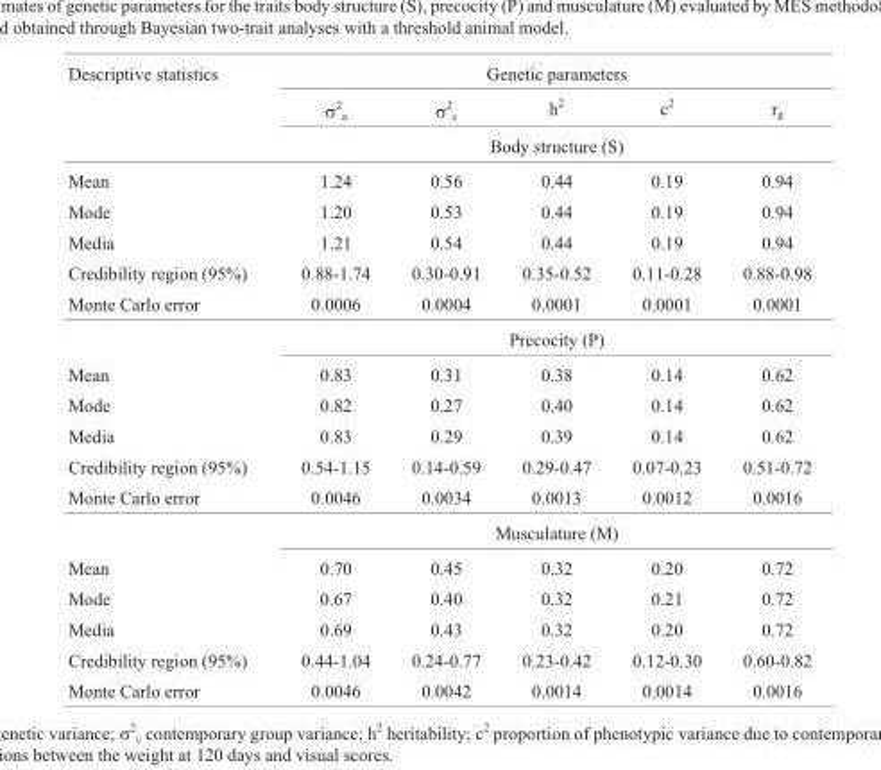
<table><thead><tr><td rowspan="3">Descriptive statistics</td><td colspan="5">Genetic parameters</td></tr><tr><td>σ<sup>2</sup> <sub>a</sub></td><td>σ<sup>2</sup> <sub>c</sub></td><td>h<sup>2</sup></td><td>c<sup>2</sup></td><td>r<sub>g</sub></td></tr><tr><td colspan="5">Body structure (S)</td></tr></thead><tbody><tr><td>Mean</td><td>1.24</td><td>0.56</td><td>0.44</td><td>0.19</td><td>0.94</td></tr><tr><td>Mode</td><td>1.20</td><td>0.53</td><td>0.44</td><td>0.19</td><td>0.94</td></tr><tr><td>Media</td><td>1.21</td><td>0.54</td><td>0.44</td><td>0.19</td><td>0.94</td></tr><tr><td>Credibility region (95%)</td><td>0.88-1.74</td><td>0.30-0.91</td><td>0.35-0.52</td><td>0.11-0.28</td><td>0.88-0.98</td></tr><tr><td rowspan="2">Monte Carlo error</td><td>0.0006</td><td>0.0004</td><td>0.0001</td><td>0.0001</td><td>0.0001</td></tr><tr><td colspan="5">Precocity (P)</td></tr><tr><td>Mean</td><td>0.83</td><td>0.31</td><td>0.38</td><td>0.14</td><td>0.62</td></tr><tr><td>Mode</td><td>0.82</td><td>0.27</td><td>0.40</td><td>0.14</td><td>0.62</td></tr><tr><td>Media</td><td>0.83</td><td>0.29</td><td>0.39</td><td>0.14</td><td>0.62</td></tr><tr><td>Credibility region (95%)</td><td>0.54-1.15</td><td>0.14-0.59</td><td>0.29-0.47</td><td>0.07-0.23</td><td>0.51-0.72</td></tr><tr><td rowspan="2">Monte Carlo error</td><td>0.0046</td><td>0.0034</td><td>0.0013</td><td>0.0012</td><td>0.0016</td></tr><tr><td colspan="5">Musculature (M)</td></tr><tr><td>Mean</td><td>0.70</td><td>0.45</td><td>0.32</td><td>0.20</td><td>0.72</td></tr><tr><td>Mode</td><td>0.67</td><td>0.40</td><td>0.32</td><td>0.21</td><td>0.72</td></tr><tr><td>Media</td><td>0.69</td><td>0.43</td><td>0.32</td><td>0.20</td><td>0.72</td></tr><tr><td>Credibility region (95%)</td><td>0.44-1.04</td><td>0.24-0.77</td><td>0.23-0.42</td><td>0.12-0.30</td><td>0.60-0.82</td></tr><tr><td>Monte Carlo error</td><td>0.0046</td><td>0.0042</td><td>0.0014</td><td>0.0014</td><td>0.0016</td></tr></tbody></table>